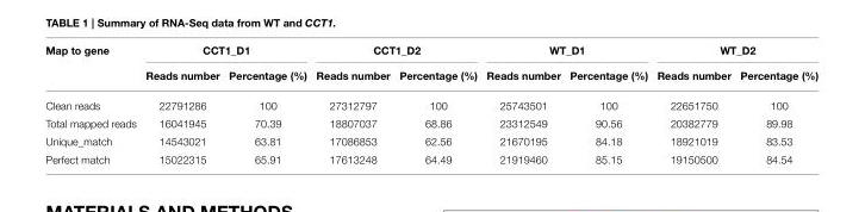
<table><thead><tr><td rowspan="2">Map to gene</td><td colspan="2">CCT1_D1</td><td colspan="2">CCT1_D2</td><td colspan="2">WT_D1</td><td colspan="2">WT_D2</td></tr><tr><td>Reads number</td><td>Percentage (%)</td><td>Reads number</td><td>Percentage (%)</td><td>Reads number</td><td>Percentage (%)</td><td>Reads number</td><td>Percentage (%)</td></tr></thead><tbody><tr><td>Clean reads</td><td>22791286</td><td>100</td><td>27312797</td><td>100</td><td>25743501</td><td>100</td><td>22651750</td><td>100</td></tr><tr><td>Total mapped reads</td><td>16041945</td><td>70.39</td><td>18807037</td><td>68.86</td><td>23312549</td><td>90.56</td><td>20382779</td><td>89.98</td></tr><tr><td>Unique_match</td><td>14543021</td><td>63.81</td><td>17086853</td><td>62.56</td><td>21670195</td><td>84.18</td><td>18921019</td><td>83.53</td></tr><tr><td>Perfect match</td><td>15022315</td><td>65.91</td><td>17613248</td><td>64.49</td><td>21919460</td><td>85.15</td><td>19150500</td><td>84.54</td></tr></tbody></table>